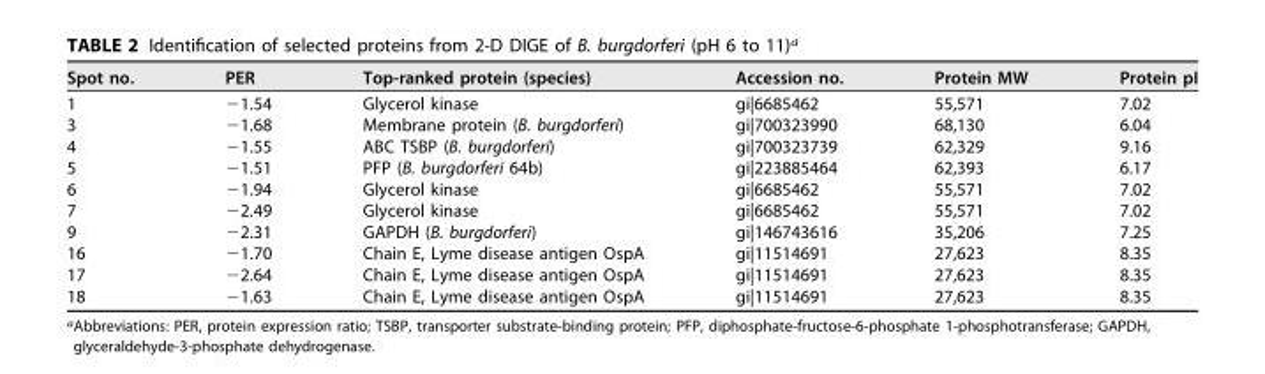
<table><thead><tr><td>Spot no.</td><td>PER</td><td>Top-ranked protein (species)</td><td>Accession no.</td><td>Protein MW</td><td>Protein pI</td></tr></thead><tbody><tr><td>1</td><td>−1.54</td><td>Glycerol kinase</td><td>gi|6685462</td><td>55,571</td><td>7.02</td></tr><tr><td>3</td><td>−1.68</td><td>Membrane protein (B. burgdorferi)</td><td>gi|700323990</td><td>68,130</td><td>6.04</td></tr><tr><td>4</td><td>−1.55</td><td>ABC TSBP (B. burgdorferi)</td><td>gi|700323739</td><td>62,329</td><td>9.16</td></tr><tr><td>5</td><td>−1.51</td><td>PFP (B. burgdorferi 64b)</td><td>gi|223885464</td><td>62,393</td><td>6.17</td></tr><tr><td>6</td><td>−1.94</td><td>Glycerol kinase</td><td>gi|6685462</td><td>55,571</td><td>7.02</td></tr><tr><td>7</td><td>−2.49</td><td>Glycerol kinase</td><td>gi|6685462</td><td>55,571</td><td>7.02</td></tr><tr><td>9</td><td>−2.31</td><td>GAPDH (B. burgdorferi)</td><td>gi|146743616</td><td>35,206</td><td>7.25</td></tr><tr><td>16</td><td>−1.70</td><td>Chain E, Lyme disease antigen OspA</td><td>gi|11514691</td><td>27,623</td><td>8.35</td></tr><tr><td>17</td><td>−2.64</td><td>Chain E, Lyme disease antigen OspA</td><td>gi|11514691</td><td>27,623</td><td>8.35</td></tr><tr><td>18</td><td>−1.63</td><td>Chain E, Lyme disease antigen OspA</td><td>gi|11514691</td><td>27,623</td><td>8.35</td></tr></tbody></table>